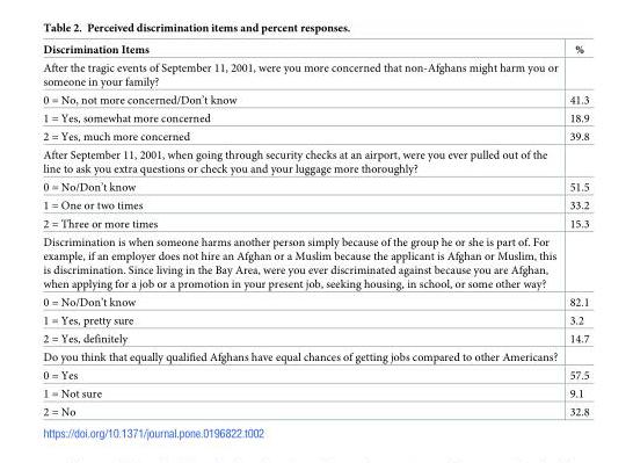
<table><thead><tr><td>Discrimination Items</td><td>%</td></tr></thead><tbody><tr><td colspan="2">After the tragic events of September 11, 2001, were you more concerned that non-Afghans might harm you or someone in your family?</td></tr><tr><td>0 = No, not more concerned/Don’t know</td><td>41.3</td></tr><tr><td>1 = Yes, somewhat more concerned</td><td>18.9</td></tr><tr><td>2 = Yes, much more concerned</td><td>39.8</td></tr><tr><td colspan="2">After September 11, 2001, when going through security checks at an airport, were you ever pulled out of the line to ask you extra questions or check you and your luggage more thoroughly?</td></tr><tr><td>0 = No/Don’t know</td><td>51.5</td></tr><tr><td>1 = One or two times</td><td>33.2</td></tr><tr><td>2 = Three or more times</td><td>15.3</td></tr><tr><td colspan="2">Discrimination is when someone harms another person simply because of the group he or she is part of. For example, if an employer does not hire an Afghan or a Muslim because the applicant is Afghan or Muslim, this is discrimination. Since living in the Bay Area, were you ever discriminated against because you are Afghan, when applying for a job or a promotion in your present job, seeking housing, in school, or some other way?</td></tr><tr><td>0 = No/Don’t know</td><td>82.1</td></tr><tr><td>1 = Yes, pretty sure</td><td>3.2</td></tr><tr><td>2 = Yes, definitely</td><td>14.7</td></tr><tr><td colspan="2">Do you think that equally qualified Afghans have equal chances of getting jobs compared to other Americans?</td></tr><tr><td>0 = Yes</td><td>57.5</td></tr><tr><td>1 = Not sure</td><td>9.1</td></tr><tr><td>2 = No</td><td>32.8</td></tr></tbody></table>